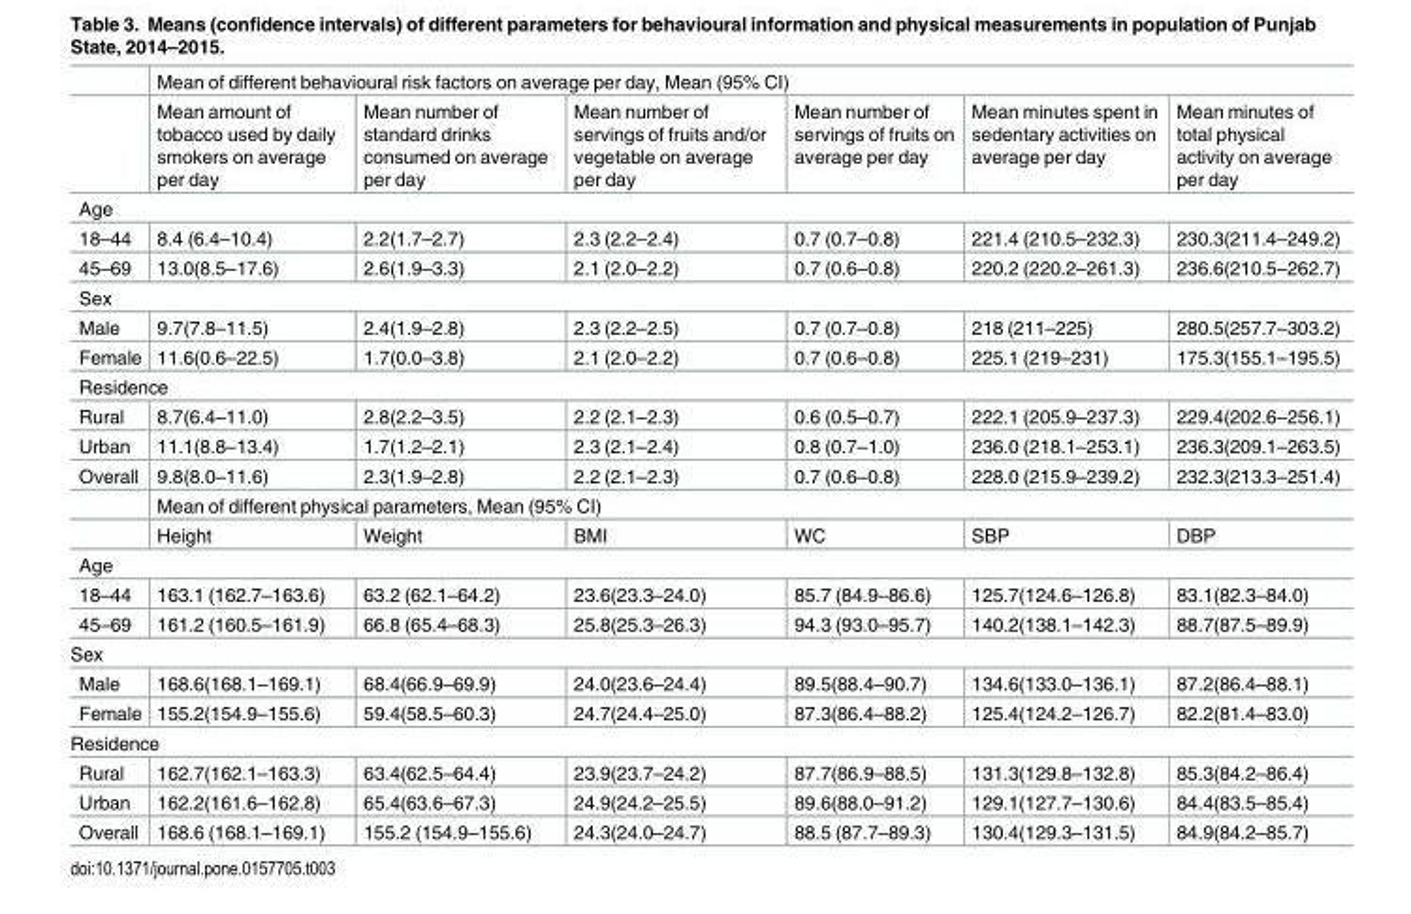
<table><thead><tr><td rowspan="2"></td><td colspan="6">Mean of different behavioural risk factors on average per day, Mean (95% CI)</td></tr><tr><td>Mean amount of tobacco used by daily smokers on average per day</td><td>Mean number of standard drinks consumed on average per day</td><td>Mean number of servings of fruits and/or vegetable on average per day</td><td>Mean number of servings of fruits on average per day</td><td>Mean minutes spent in sedentary activities on average per day</td><td>Mean minutes of total physical activity on average per day</td></tr></thead><tbody><tr><td colspan="7">Age</td></tr><tr><td>18–44</td><td>8.4 (6.4–10.4)</td><td>2.2(1.7–2.7)</td><td>2.3 (2.2–2.4)</td><td>0.7 (0.7–0.8)</td><td>221.4 (210.5–232.3)</td><td>230.3(211.4–249.2)</td></tr><tr><td>45–69</td><td>13.0(8.5–17.6)</td><td>2.6(1.9–3.3)</td><td>2.1 (2.0–2.2)</td><td>0.7 (0.6–0.8)</td><td>220.2 (220.2–261.3)</td><td>236.6(210.5–262.7)</td></tr><tr><td colspan="7">Sex</td></tr><tr><td>Male</td><td>9.7(7.8–11.5)</td><td>2.4(1.9–2.8)</td><td>2.3 (2.2–2.5)</td><td>0.7 (0.7–0.8)</td><td>218 (211–225)</td><td>280.5(257.7–303.2)</td></tr><tr><td>Female</td><td>11.6(0.6–22.5)</td><td>1.7(0.0–3.8)</td><td>2.1 (2.0–2.2)</td><td>0.7 (0.6–0.8)</td><td>225.1 (219–231)</td><td>175.3(155.1–195.5)</td></tr><tr><td colspan="7">Residence</td></tr><tr><td>Rural</td><td>8.7(6.4–11.0)</td><td>2.8(2.2–3.5)</td><td>2.2 (2.1–2.3)</td><td>0.6 (0.5–0.7)</td><td>222.1 (205.9–237.3)</td><td>229.4(202.6–256.1)</td></tr><tr><td>Urban</td><td>11.1(8.8–13.4)</td><td>1.7(1.2–2.1)</td><td>2.3 (2.1–2.4)</td><td>0.8 (0.7–1.0)</td><td>236.0 (218.1–253.1)</td><td>236.3(209.1–263.5)</td></tr><tr><td rowspan="3">Overall</td><td>9.8(8.0–11.6)</td><td>2.3(1.9–2.8)</td><td>2.2 (2.1–2.3)</td><td>0.7 (0.6–0.8)</td><td>228.0 (215.9–239.2)</td><td>232.3(213.3–251.4)</td></tr><tr><td colspan="6">Mean of different physical parameters, Mean (95% CI)</td></tr><tr><td>Height</td><td>Weight</td><td>BMI</td><td>WC</td><td>SBP</td><td>DBP</td></tr><tr><td colspan="7">Age</td></tr><tr><td>18–44</td><td>163.1 (162.7–163.6)</td><td>63.2 (62.1–64.2)</td><td>23.6(23.3–24.0)</td><td>85.7 (84.9–86.6)</td><td>125.7(124.6–126.8)</td><td>83.1(82.3–84.0)</td></tr><tr><td>45–69</td><td>161.2 (160.5–161.9)</td><td>66.8 (65.4–68.3)</td><td>25.8(25.3–26.3)</td><td>94.3 (93.0–95.7)</td><td>140.2(138.1–142.3)</td><td>88.7(87.5–89.9)</td></tr><tr><td colspan="7">Sex</td></tr><tr><td>Male</td><td>168.6(168.1–169.1)</td><td>68.4(66.9–69.9)</td><td>24.0(23.6–24.4)</td><td>89.5(88.4–90.7)</td><td>134.6(133.0–136.1)</td><td>87.2(86.4–88.1)</td></tr><tr><td>Female</td><td>155.2(154.9–155.6)</td><td>59.4(58.5–60.3)</td><td>24.7(24.4–25.0)</td><td>87.3(86.4–88.2)</td><td>125.4(124.2–126.7)</td><td>82.2(81.4–83.0)</td></tr><tr><td colspan="7">Residence</td></tr><tr><td>Rural</td><td>162.7(162.1–163.3)</td><td>63.4(62.5–64.4)</td><td>23.9(23.7–24.2)</td><td>87.7(86.9–88.5)</td><td>131.3(129.8–132.8)</td><td>85.3(84.2–86.4)</td></tr><tr><td>Urban</td><td>162.2(161.6–162.8)</td><td>65.4(63.6–67.3)</td><td>24.9(24.2–25.5)</td><td>89.6(88.0–91.2)</td><td>129.1(127.7–130.6)</td><td>84.4(83.5–85.4)</td></tr><tr><td>Overall</td><td>168.6 (168.1–169.1)</td><td>155.2 (154.9–155.6)</td><td>24.3(24.0–24.7)</td><td>88.5 (87.7–89.3)</td><td>130.4(129.3–131.5)</td><td>84.9(84.2–85.7)</td></tr></tbody></table>